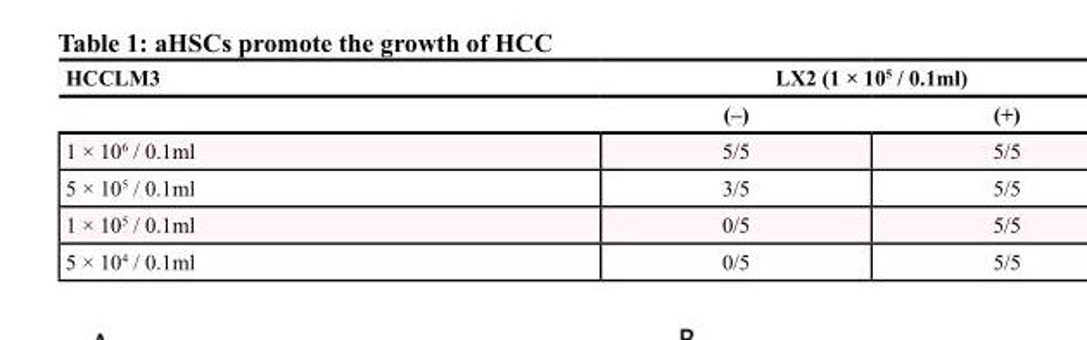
<table><thead><tr><td rowspan="2">HCCLM3</td><td colspan="2">LX2 (1 × 10<sup>5</sup> / 0.1ml)</td></tr><tr><td>(–)</td><td>(+)</td></tr></thead><tbody><tr><td>1 × 10<sup>6</sup> / 0.1ml</td><td>5/5</td><td>5/5</td></tr><tr><td>5 × 10<sup>5</sup> / 0.1ml</td><td>3/5</td><td>5/5</td></tr><tr><td>1 × 10<sup>5</sup> / 0.1ml</td><td>0/5</td><td>5/5</td></tr><tr><td>5 × 10<sup>4</sup> / 0.1ml</td><td>0/5</td><td>5/5</td></tr></tbody></table>